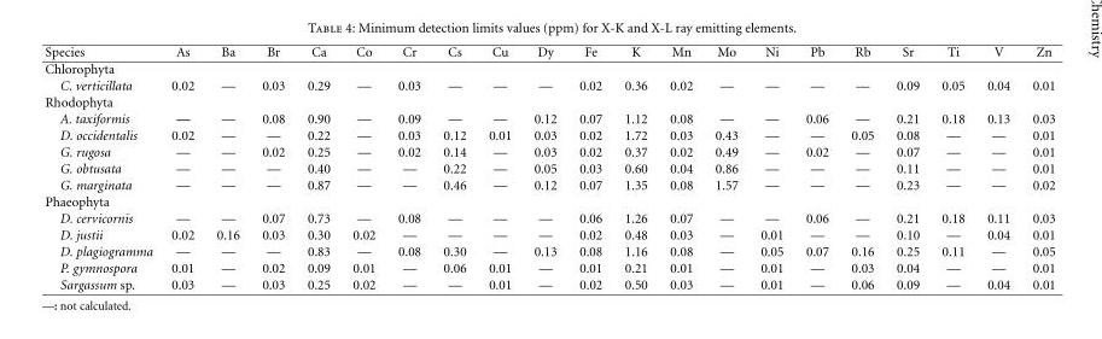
<table><thead><tr><td>Species</td><td>As</td><td>Ba</td><td>Br</td><td>Ca</td><td>Co</td><td>Cr</td><td>Cs</td><td>Cu</td><td>Dy</td><td>Fe</td><td>K</td><td>Mn</td><td>Mo</td><td>Ni</td><td>Pb</td><td>Rb</td><td>Sr</td><td>Ti</td><td>V</td><td>Zn</td></tr></thead><tbody><tr><td colspan="21">Chlorophyta</td></tr><tr><td>C. verticillata</td><td>0.02</td><td>—</td><td>0.03</td><td>0.29</td><td>—</td><td>0.03</td><td>—</td><td>—</td><td>—</td><td>0.02</td><td>0.36</td><td>0.02</td><td>—</td><td>—</td><td>—</td><td>—</td><td>0.09</td><td>0.05</td><td>0.04</td><td>0.01</td></tr><tr><td colspan="21">Rhodophyta</td></tr><tr><td>A. taxiformis</td><td>—</td><td>—</td><td>0.08</td><td>0.90</td><td>—</td><td>0.09</td><td>—</td><td>—</td><td>0.12</td><td>0.07</td><td>1.12</td><td>0.08</td><td>—</td><td>—</td><td>0.06</td><td>—</td><td>0.21</td><td>0.18</td><td>0.13</td><td>0.03</td></tr><tr><td>D. occidentalis</td><td>0.02</td><td>—</td><td>—</td><td>0.22</td><td>—</td><td>0.03</td><td>0.12</td><td>0.01</td><td>0.03</td><td>0.02</td><td>1.72</td><td>0.03</td><td>0.43</td><td>—</td><td>—</td><td>0.05</td><td>0.08</td><td>—</td><td>—</td><td>0.01</td></tr><tr><td>G. rugosa</td><td>—</td><td>—</td><td>0.02</td><td>0.25</td><td>—</td><td>0.02</td><td>0.14</td><td>—</td><td>0.03</td><td>0.02</td><td>0.37</td><td>0.02</td><td>0.49</td><td>—</td><td>0.02</td><td>—</td><td>0.07</td><td>—</td><td>—</td><td>0.01</td></tr><tr><td>G. obtusata</td><td>—</td><td>—</td><td>—</td><td>0.40</td><td>—</td><td>—</td><td>0.22</td><td>—</td><td>0.05</td><td>0.03</td><td>0.60</td><td>0.04</td><td>0.86</td><td>—</td><td>—</td><td>—</td><td>0.11</td><td>—</td><td>—</td><td>0.01</td></tr><tr><td>G. marginata</td><td>—</td><td>—</td><td>—</td><td>0.87</td><td>—</td><td>—</td><td>0.46</td><td>—</td><td>0.12</td><td>0.07</td><td>1.35</td><td>0.08</td><td>1.57</td><td>—</td><td>—</td><td>—</td><td>0.23</td><td>—</td><td>—</td><td>0.02</td></tr><tr><td colspan="21">Phaeophyta</td></tr><tr><td>D. cervicornis</td><td>—</td><td>—</td><td>0.07</td><td>0.73</td><td>—</td><td>0.08</td><td>—</td><td>—</td><td>—</td><td>0.06</td><td>1.26</td><td>0.07</td><td>—</td><td>—</td><td>0.06</td><td>—</td><td>0.21</td><td>0.18</td><td>0.11</td><td>0.03</td></tr><tr><td>D. justii</td><td>0.02</td><td>0.16</td><td>0.03</td><td>0.30</td><td>0.02</td><td>—</td><td>—</td><td>—</td><td>—</td><td>0.02</td><td>0.48</td><td>0.03</td><td>—</td><td>0.01</td><td>—</td><td>—</td><td>0.10</td><td>—</td><td>0.04</td><td>0.01</td></tr><tr><td>D. plagiogramma</td><td>—</td><td>—</td><td>—</td><td>0.83</td><td>—</td><td>0.08</td><td>0.30</td><td>—</td><td>0.13</td><td>0.08</td><td>1.16</td><td>0.08</td><td>—</td><td>0.05</td><td>0.07</td><td>0.16</td><td>0.25</td><td>0.11</td><td>—</td><td>0.05</td></tr><tr><td>P. gymnospora</td><td>0.01</td><td>—</td><td>0.02</td><td>0.09</td><td>0.01</td><td>—</td><td>0.06</td><td>0.01</td><td>—</td><td>0.01</td><td>0.21</td><td>0.01</td><td>—</td><td>0.01</td><td>—</td><td>0.03</td><td>0.04</td><td>—</td><td>—</td><td>0.01</td></tr><tr><td>Sargassum sp.</td><td>0.03</td><td>—</td><td>0.03</td><td>0.25</td><td>0.02</td><td>—</td><td>—</td><td>0.01</td><td>—</td><td>0.02</td><td>0.50</td><td>0.03</td><td>—</td><td>0.01</td><td>—</td><td>0.06</td><td>0.09</td><td>—</td><td>0.04</td><td>0.01</td></tr></tbody></table>